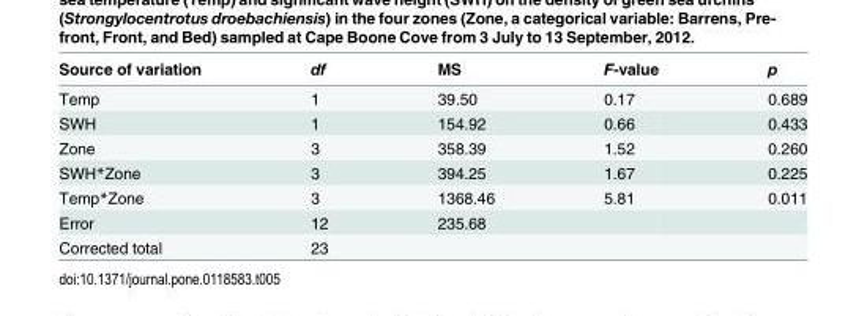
<table><thead><tr><td>Source of variation</td><td>df</td><td>MS</td><td>F-value</td><td>p</td></tr></thead><tbody><tr><td>Temp</td><td>1</td><td>39.50</td><td>0.17</td><td>0.689</td></tr><tr><td>SWH</td><td>1</td><td>154.92</td><td>0.66</td><td>0.433</td></tr><tr><td>Zone</td><td>3</td><td>358.39</td><td>1.52</td><td>0.260</td></tr><tr><td>SWH*Zone</td><td>3</td><td>394.25</td><td>1.67</td><td>0.225</td></tr><tr><td>Temp*Zone</td><td>3</td><td>1368.46</td><td>5.81</td><td>0.011</td></tr><tr><td>Error</td><td>12</td><td>235.68</td><td></td><td></td></tr><tr><td>Corrected total</td><td>23</td><td></td><td></td><td></td></tr></tbody></table>